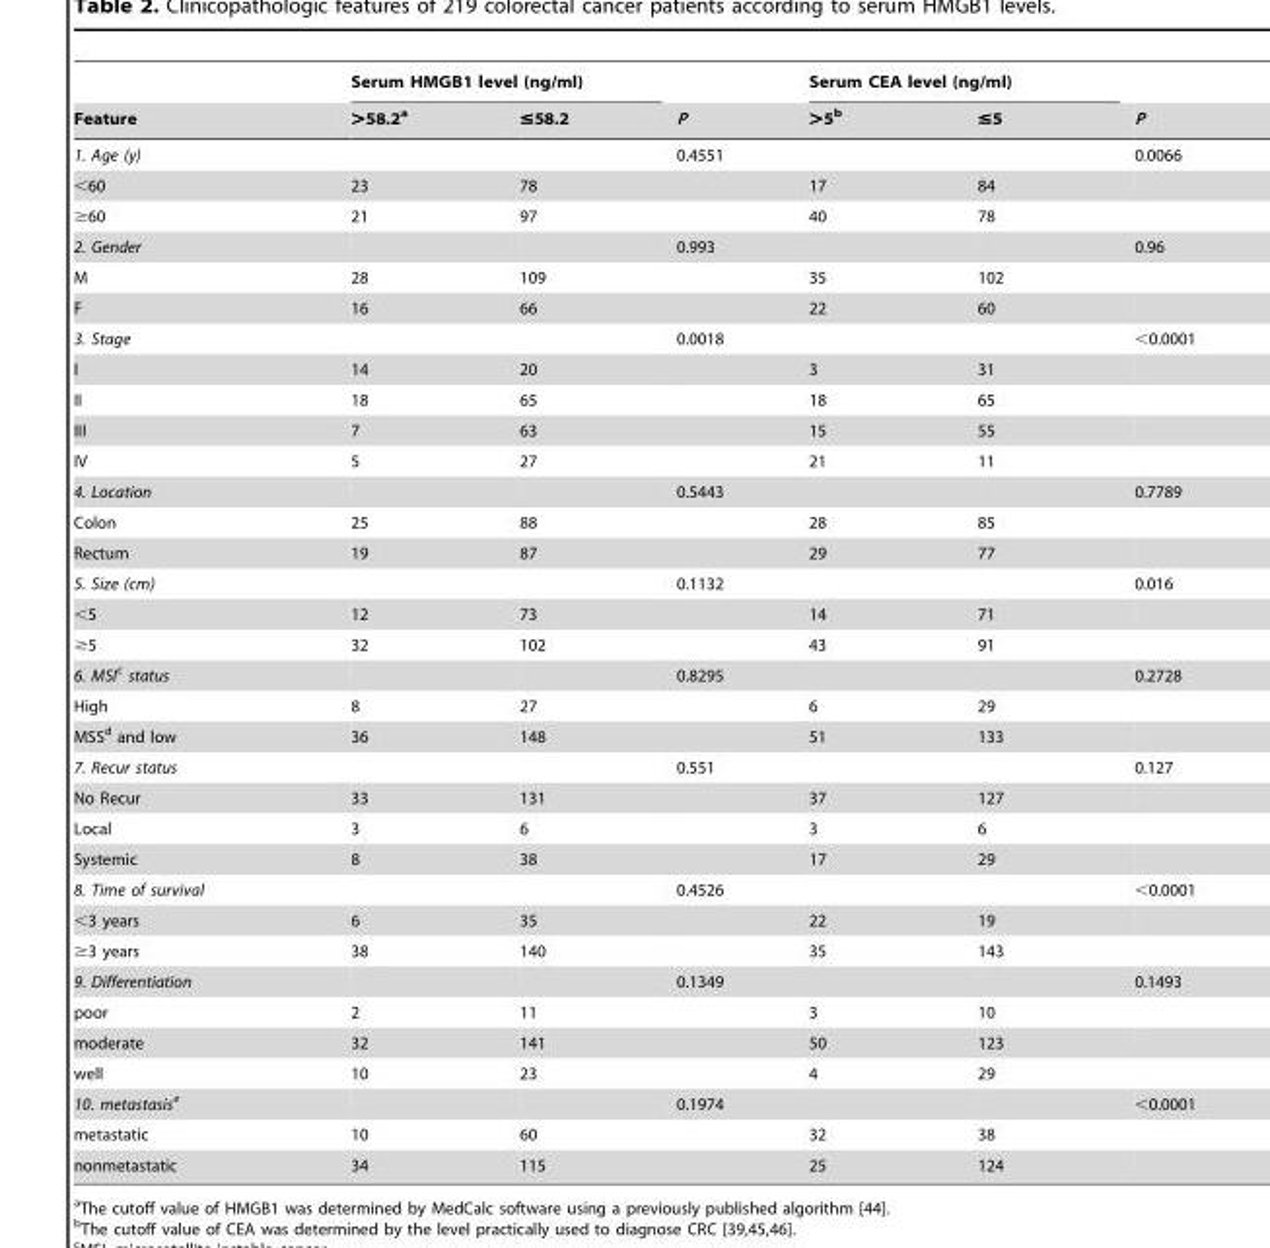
<table><thead><tr><td rowspan="2">Feature</td><td colspan="2">Serum HMGB1 level (ng/ml)</td><td rowspan="2">P</td><td colspan="2">Serum CEA level (ng/ml)</td><td rowspan="2">P</td></tr><tr><td>&gt;58.2<sup>a</sup></td><td>≤58.2</td><td>&gt;5<sup>b</sup></td><td>≤5</td></tr></thead><tbody><tr><td>1. Age (y)</td><td></td><td></td><td>0.4551</td><td></td><td></td><td>0.0066</td></tr><tr><td>&lt;60</td><td>23</td><td>78</td><td></td><td>17</td><td>84</td><td></td></tr><tr><td>≥60</td><td>21</td><td>97</td><td></td><td>40</td><td>78</td><td></td></tr><tr><td>2. Gender</td><td></td><td></td><td>0.993</td><td></td><td></td><td>0.96</td></tr><tr><td>M</td><td>28</td><td>109</td><td></td><td>35</td><td>102</td><td></td></tr><tr><td>F</td><td>16</td><td>66</td><td></td><td>22</td><td>60</td><td></td></tr><tr><td>3. Stage</td><td></td><td></td><td>0.0018</td><td></td><td></td><td>&lt;0.0001</td></tr><tr><td>I</td><td>14</td><td>20</td><td></td><td>3</td><td>31</td><td></td></tr><tr><td>II</td><td>18</td><td>65</td><td></td><td>18</td><td>65</td><td></td></tr><tr><td>III</td><td>7</td><td>63</td><td></td><td>15</td><td>55</td><td></td></tr><tr><td>IV</td><td>5</td><td>27</td><td></td><td>21</td><td>11</td><td></td></tr><tr><td>4. Location</td><td></td><td></td><td>0.5443</td><td></td><td></td><td>0.7789</td></tr><tr><td>Colon</td><td>25</td><td>88</td><td></td><td>28</td><td>85</td><td></td></tr><tr><td>Rectum</td><td>19</td><td>87</td><td></td><td>29</td><td>77</td><td></td></tr><tr><td>5. Size (cm)</td><td></td><td></td><td>0.1132</td><td></td><td></td><td>0.016</td></tr><tr><td>&lt;5</td><td>12</td><td>73</td><td></td><td>14</td><td>71</td><td></td></tr><tr><td>≥5</td><td>32</td><td>102</td><td></td><td>43</td><td>91</td><td></td></tr><tr><td>6. MSIc status</td><td></td><td></td><td>0.8295</td><td></td><td></td><td>0.2728</td></tr><tr><td>High</td><td>8</td><td>27</td><td></td><td>6</td><td>29</td><td></td></tr><tr><td>MSS<sup>d</sup> and low</td><td>36</td><td>148</td><td></td><td>51</td><td>133</td><td></td></tr><tr><td>7. Recur status</td><td></td><td></td><td>0.551</td><td></td><td></td><td>0.127</td></tr><tr><td>No Recur</td><td>33</td><td>131</td><td></td><td>37</td><td>127</td><td></td></tr><tr><td>Local</td><td>3</td><td>6</td><td></td><td>3</td><td>6</td><td></td></tr><tr><td>Systemic</td><td>8</td><td>38</td><td></td><td>17</td><td>29</td><td></td></tr><tr><td>8. Time of survival</td><td></td><td></td><td>0.4526</td><td></td><td></td><td>&lt;0.0001</td></tr><tr><td>&lt;3 years</td><td>6</td><td>35</td><td></td><td>22</td><td>19</td><td></td></tr><tr><td>≥3 years</td><td>38</td><td>140</td><td></td><td>35</td><td>143</td><td></td></tr><tr><td>9. Differentiation</td><td></td><td></td><td>0.1349</td><td></td><td></td><td>0.1493</td></tr><tr><td>poor</td><td>2</td><td>11</td><td></td><td>3</td><td>10</td><td></td></tr><tr><td>moderate</td><td>32</td><td>141</td><td></td><td>50</td><td>123</td><td></td></tr><tr><td>well</td><td>10</td><td>23</td><td></td><td>4</td><td>29</td><td></td></tr><tr><td>10. metastasise</td><td></td><td></td><td>0.1974</td><td></td><td></td><td>&lt;0.0001</td></tr><tr><td>metastatic</td><td>10</td><td>60</td><td></td><td>32</td><td>38</td><td></td></tr><tr><td>nonmetastatic</td><td>34</td><td>115</td><td></td><td>25</td><td>124</td><td></td></tr></tbody></table>